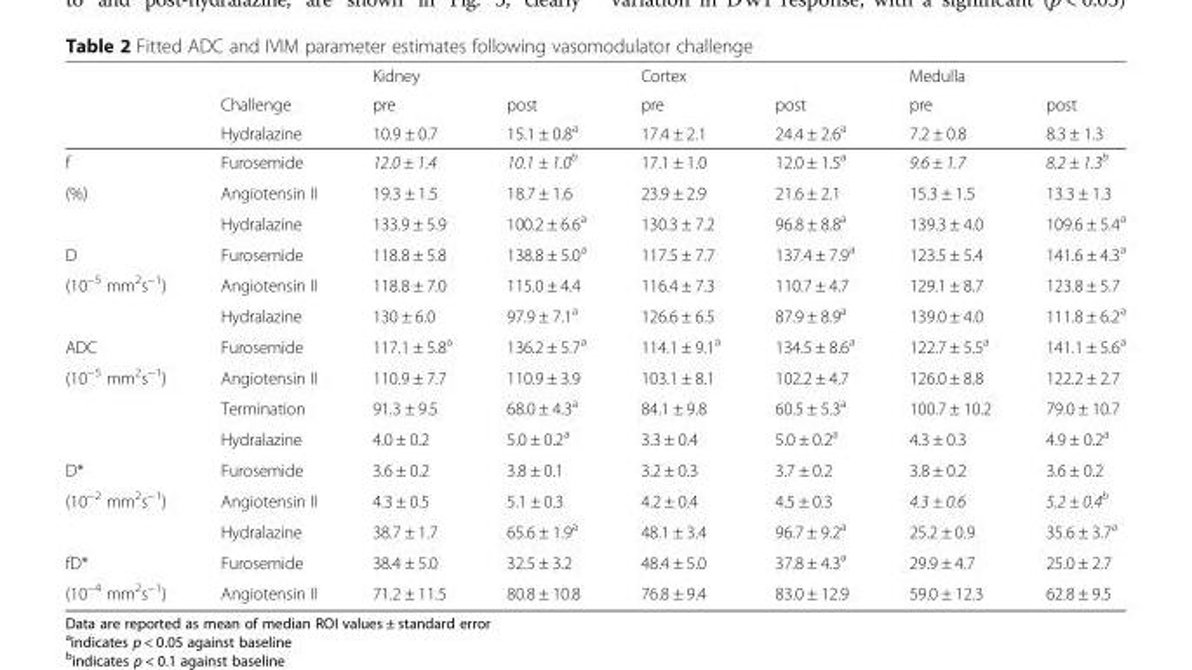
<table><thead><tr><td rowspan="3"></td><td rowspan="3">Challenge Hydralazine</td><td rowspan="3">Kidney pre 10.9 ± 0.7</td><td rowspan="3">post 15.1 ± 0.8<sup>a</sup></td><td rowspan="3">Cortex pre 17.4 ± 2.1</td><td rowspan="3">post 24.4 ± 2.6<sup>a</sup></td><td rowspan="3">Medulla pre 7.2 ± 0.8</td><td rowspan="3">post 8.3 ± 1.3</td></tr><tr></tr><tr></tr></thead><tbody><tr><td>f</td><td>Furosemide</td><td>12.0 ± 1.4</td><td>10.1 ± 1.0<sup>b</sup></td><td>17.1 ± 1.0</td><td>12.0 ± 1.5<sup>a</sup></td><td>9.6 ± 1.7</td><td>8.2 ± 1.3<sup>b</sup></td></tr><tr><td rowspan="2">(%)</td><td>Angiotensin II</td><td>19.3 ± 1.5</td><td>18.7 ± 1.6</td><td>23.9 ± 2.9</td><td>21.6 ± 2.1</td><td>15.3 ± 1.5</td><td>13.3 ± 1.3</td></tr><tr><td>Hydralazine</td><td>133.9 ± 5.9</td><td>100.2 ± 6.6<sup>a</sup></td><td>130.3 ± 7.2</td><td>96.8 ± 8.8<sup>a</sup></td><td>139.3 ± 4.0</td><td>109.6 ± 5.4<sup>a</sup></td></tr><tr><td>D</td><td>Furosemide</td><td>118.8 ± 5.8</td><td>138.8 ± 5.0<sup>a</sup></td><td>117.5 ± 7.7</td><td>137.4 ± 7.9<sup>a</sup></td><td>123.5 ± 5.4</td><td>141.6 ± 4.3<sup>a</sup></td></tr><tr><td rowspan="2">(10<sup>−5</sup> mm<sup>2</sup>s<sup>−1</sup>)</td><td>Angiotensin II</td><td>118.8 ± 7.0</td><td>115.0 ± 4.4</td><td>116.4 ± 7.3</td><td>110.7 ± 4.7</td><td>129.1 ± 8.7</td><td>123.8 ± 5.7</td></tr><tr><td>Hydralazine</td><td>130 ± 6.0</td><td>97.9 ± 7.1<sup>a</sup></td><td>126.6 ± 6.5</td><td>87.9 ± 8.9<sup>a</sup></td><td>139.0 ± 4.0</td><td>111.8 ± 6.2<sup>a</sup></td></tr><tr><td>ADC</td><td>Furosemide</td><td>117.1 ± 5.8<sup>a</sup></td><td>136.2 ± 5.7<sup>a</sup></td><td>114.1 ± 9.1<sup>a</sup></td><td>134.5 ± 8.6<sup>a</sup></td><td>122.7 ± 5.5<sup>a</sup></td><td>141.1 ± 5.6<sup>a</sup></td></tr><tr><td rowspan="3">(10<sup>−5</sup> mm<sup>2</sup>s<sup>−1</sup>)</td><td>Angiotensin II</td><td>110.9 ± 7.7</td><td>110.9 ± 3.9</td><td>103.1 ± 8.1</td><td>102.2 ± 4.7</td><td>126.0 ± 8.8</td><td>122.2 ± 2.7</td></tr><tr><td>Termination</td><td>91.3 ± 9.5</td><td>68.0 ± 4.3<sup>a</sup></td><td>84.1 ± 9.8</td><td>60.5 ± 5.3<sup>a</sup></td><td>100.7 ± 10.2</td><td>79.0 ± 10.7</td></tr><tr><td>Hydralazine</td><td>4.0 ± 0.2</td><td>5.0 ± 0.2<sup>a</sup></td><td>3.3 ± 0.4</td><td>5.0 ± 0.2<sup>a</sup></td><td>4.3 ± 0.3</td><td>4.9 ± 0.2<sup>a</sup></td></tr><tr><td>D*</td><td>Furosemide</td><td>3.6 ± 0.2</td><td>3.8 ± 0.1</td><td>3.2 ± 0.3</td><td>3.7 ± 0.2</td><td>3.8 ± 0.2</td><td>3.6 ± 0.2</td></tr><tr><td rowspan="2">(10<sup>−2</sup> mm<sup>2</sup>s<sup>−1</sup>)</td><td>Angiotensin II</td><td>4.3 ± 0.5</td><td>5.1 ± 0.3</td><td>4.2 ± 0.4</td><td>4.5 ± 0.3</td><td>4.3 ± 0.6</td><td>5.2 ± 0.4<sup>b</sup></td></tr><tr><td>Hydralazine</td><td>38.7 ± 1.7</td><td>65.6 ± 1.9<sup>a</sup></td><td>48.1 ± 3.4</td><td>96.7 ± 9.2<sup>a</sup></td><td>25.2 ± 0.9</td><td>35.6 ± 3.7<sup>a</sup></td></tr><tr><td>fD*</td><td>Furosemide</td><td>38.4 ± 5.0</td><td>32.5 ± 3.2</td><td>48.4 ± 5.0</td><td>37.8 ± 4.3<sup>a</sup></td><td>29.9 ± 4.7</td><td>25.0 ± 2.7</td></tr><tr><td>(10<sup>−4</sup> mm<sup>2</sup>s<sup>−1</sup>)</td><td>Angiotensin II</td><td>71.2 ± 11.5</td><td>80.8 ± 10.8</td><td>76.8 ± 9.4</td><td>83.0 ± 12.9</td><td>59.0 ± 12.3</td><td>62.8 ± 9.5</td></tr></tbody></table>